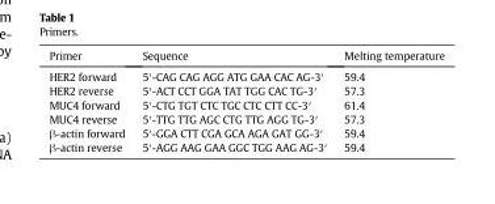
<table><thead><tr><td>Primer</td><td>Sequence</td><td>Melting temperature</td></tr></thead><tbody><tr><td>HER2 forward</td><td>5′-CAG CAG AGG ATG GAA CAC AG-3′</td><td>59.4</td></tr><tr><td>HER2 reverse</td><td>5′-ACT CCT GGA TAT TGG CAC TG-3′</td><td>57.3</td></tr><tr><td>MUC4 forward</td><td>5′-CTG TGT CTC TGC CTC CTT CC-3′</td><td>61.4</td></tr><tr><td>MUC4 reverse</td><td>5′-TTG TTG AGC CTG TTG AGG TG-3′</td><td>57.3</td></tr><tr><td>β-actin forward</td><td>5′-GGA CTT CGA GCA AGA GAT GG-3′</td><td>59.4</td></tr><tr><td>β-actin reverse</td><td>5′-AGG AAG GAA GGC TGG AAG AG-3′</td><td>59.4</td></tr></tbody></table>